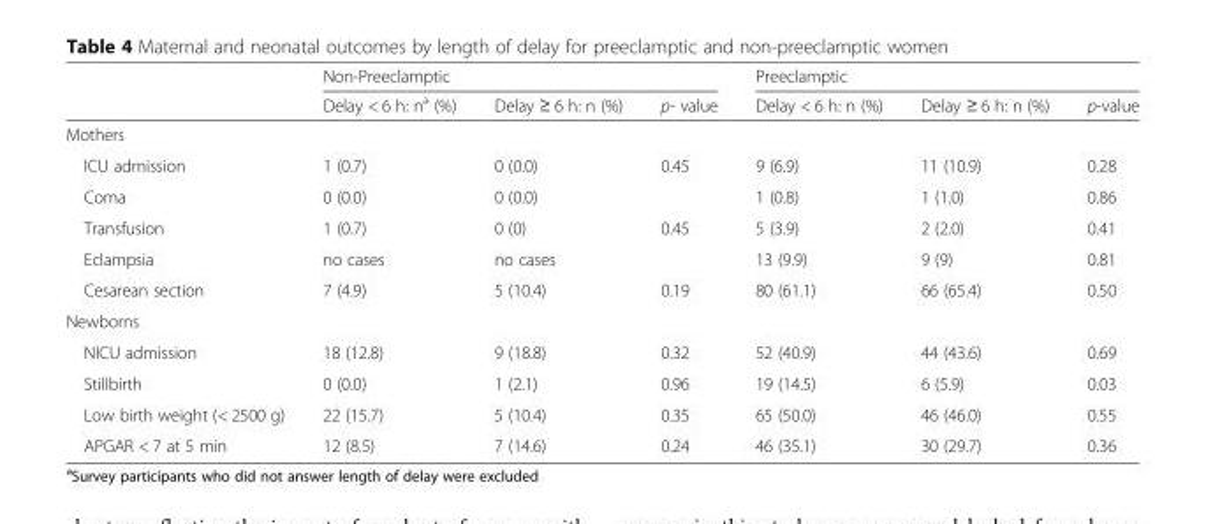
<table><thead><tr><td rowspan="2"></td><td colspan="3">Non-Preeclamptic</td><td colspan="3">Preeclamptic</td></tr><tr><td>Delay &lt; 6 h: n<sup>a</sup> (%)</td><td>Delay ≥ 6 h: n (%)</td><td>p- value</td><td>Delay &lt; 6 h: n (%)</td><td>Delay ≥ 6 h: n (%)</td><td>p-value</td></tr></thead><tbody><tr><td colspan="7">Mothers</td></tr><tr><td>ICU admission</td><td>1 (0.7)</td><td>0 (0.0)</td><td>0.45</td><td>9 (6.9)</td><td>11 (10.9)</td><td>0.28</td></tr><tr><td>Coma</td><td>0 (0.0)</td><td>0 (0.0)</td><td></td><td>1 (0.8)</td><td>1 (1.0)</td><td>0.86</td></tr><tr><td>Transfusion</td><td>1 (0.7)</td><td>0 (0)</td><td>0.45</td><td>5 (3.9)</td><td>2 (2.0)</td><td>0.41</td></tr><tr><td>Eclampsia</td><td>no cases</td><td>no cases</td><td></td><td>13 (9.9)</td><td>9 (9)</td><td>0.81</td></tr><tr><td>Cesarean section</td><td>7 (4.9)</td><td>5 (10.4)</td><td>0.19</td><td>80 (61.1)</td><td>66 (65.4)</td><td>0.50</td></tr><tr><td colspan="7">Newborns</td></tr><tr><td>NICU admission</td><td>18 (12.8)</td><td>9 (18.8)</td><td>0.32</td><td>52 (40.9)</td><td>44 (43.6)</td><td>0.69</td></tr><tr><td>Stillbirth</td><td>0 (0.0)</td><td>1 (2.1)</td><td>0.96</td><td>19 (14.5)</td><td>6 (5.9)</td><td>0.03</td></tr><tr><td>Low birth weight (&lt; 2500 g)</td><td>22 (15.7)</td><td>5 (10.4)</td><td>0.35</td><td>65 (50.0)</td><td>46 (46.0)</td><td>0.55</td></tr><tr><td>APGAR &lt; 7 at 5 min</td><td>12 (8.5)</td><td>7 (14.6)</td><td>0.24</td><td>46 (35.1)</td><td>30 (29.7)</td><td>0.36</td></tr></tbody></table>